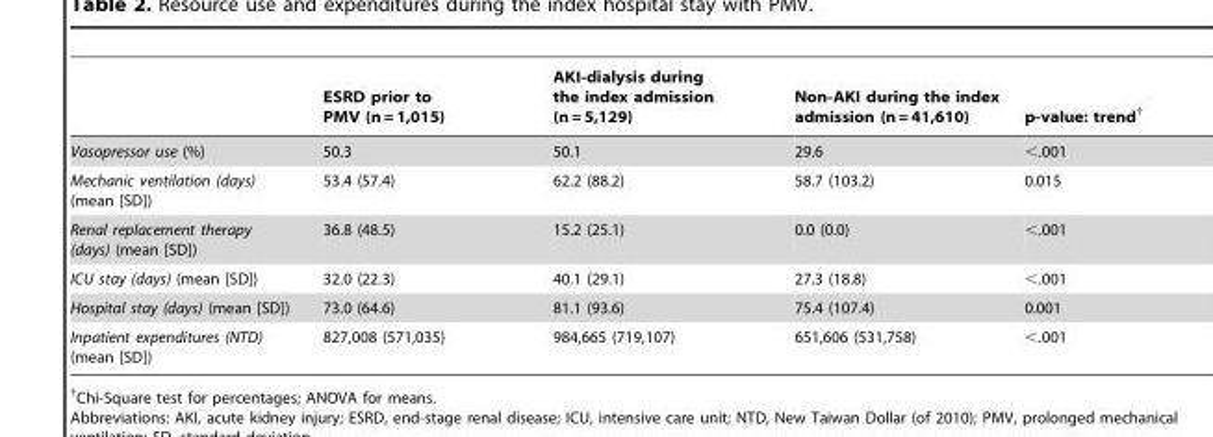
<table><thead><tr><td></td><td>ESRD prior to PMV (n = 1,015)</td><td>AKI-dialysis during the index admission (n = 5,129)</td><td>Non-AKI during the index admission (n = 41,610)</td><td>p-value: trend†</td></tr></thead><tbody><tr><td>Vasopressor use (%)</td><td>50.3</td><td>50.1</td><td>29.6</td><td>&lt;.001</td></tr><tr><td>Mechanic ventilation (days) (mean [SD])</td><td>53.4 (57.4)</td><td>62.2 (88.2)</td><td>58.7 (103.2)</td><td>0.015</td></tr><tr><td>Renal replacement therapy (days) (mean [SD])</td><td>36.8 (48.5)</td><td>15.2 (25.1)</td><td>0.0 (0.0)</td><td>&lt;.001</td></tr><tr><td>ICU stay (days) (mean [SD])</td><td>32.0 (22.3)</td><td>40.1 (29.1)</td><td>27.3 (18.8)</td><td>&lt;.001</td></tr><tr><td>Hospital stay (days) (mean [SD])</td><td>73.0 (64.6)</td><td>81.1 (93.6)</td><td>75.4 (107.4)</td><td>0.001</td></tr><tr><td>Inpatient expenditures (NTD) (mean [SD])</td><td>827,008 (571,035)</td><td>984,665 (719,107)</td><td>651,606 (531,758)</td><td>&lt;.001</td></tr></tbody></table>